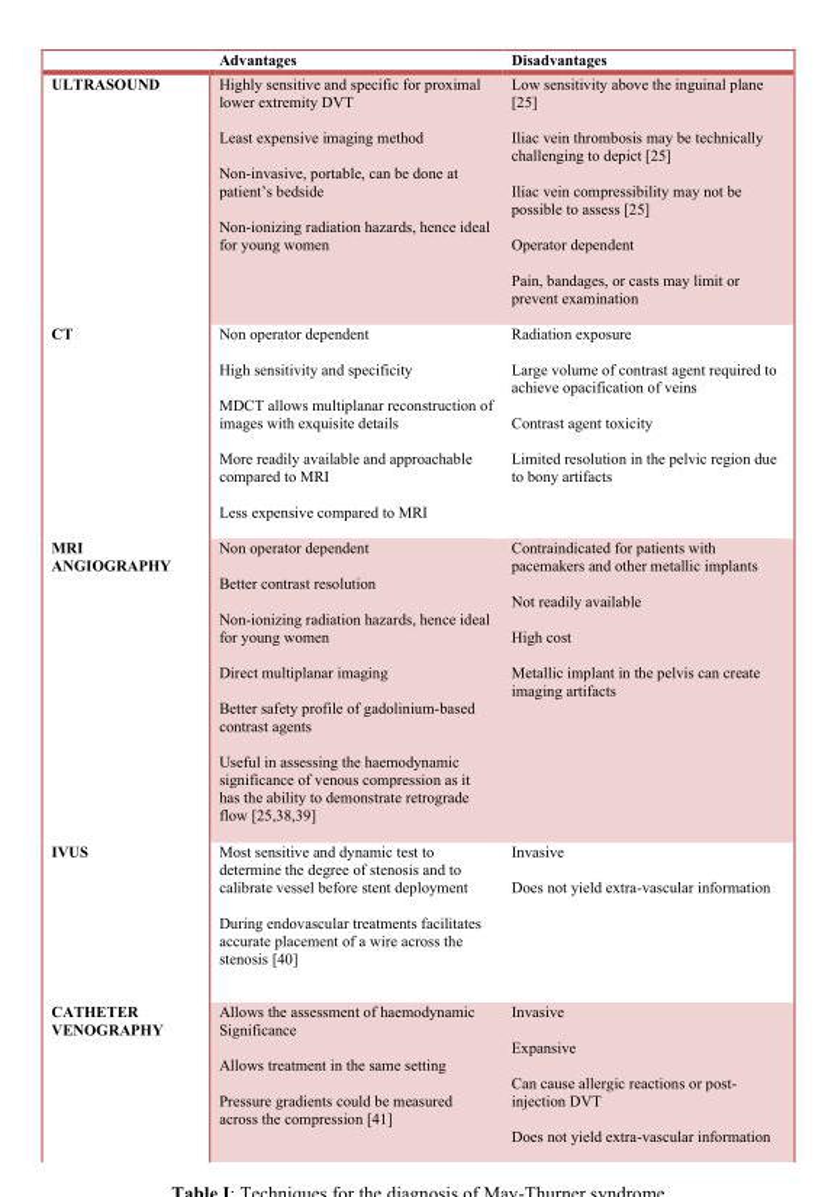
<table><thead><tr><td></td><td>Advantages</td><td>Disadvantages</td></tr></thead><tbody><tr><td>ULTRASOUND</td><td>Highly sensitive and specific for proximal lower extremity DVT Least expensive imaging method Non-invasive, portable, can be done at patient’s bedside Non-ionizing radiation hazards, hence ideal for young women</td><td>Low sensitivity above the inguinal plane [25] Iliac vein thrombosis may be technically challenging to depict [25] Iliac vein compressibility may not be possible to assess [25] Operator dependent Pain, bandages, or casts may limit or prevent examination</td></tr><tr><td>CT</td><td>Non operator dependent High sensitivity and specificity MDCT allows multiplanar reconstruction of images with exquisite details More readily available and approachable compared to MRI Less expensive compared to MRI</td><td>Radiation exposure Large volume of contrast agent required to achieve opacification of veins Contrast agent toxicity Limited resolution in the pelvic region due to bony artifacts</td></tr><tr><td>MRI ANGIOGRAPHY</td><td>Non operator dependent Better contrast resolution Non-ionizing radiation hazards, hence ideal for young women Direct multiplanar imaging Better safety profile of gadolinium-based contrast agents Useful in assessing the haemodynamic significance of venous compression as it has the ability to demonstrate retrograde flow [25,38,39]</td><td>Contraindicated for patients with pacemakers and other metallic implants Not readily available High cost Metallic implant in the pelvis can create imaging artifacts</td></tr><tr><td>IVUS</td><td>Most sensitive and dynamic test to determine the degree of stenosis and to calibrate vessel before stent deployment During endovascular treatments facilitates accurate placement of a wire across the stenosis [40]</td><td>Invasive Does not yield extra-vascular information</td></tr><tr><td>CATHETER VENOGRAPHY</td><td>Allows the assessment of haemodynamic Significance Allows treatment in the same setting Pressure gradients could be measured across the compression [41]</td><td>Invasive Expansive Can cause allergic reactions or post- injection DVT Does not yield extra-vascular information</td></tr></tbody></table>